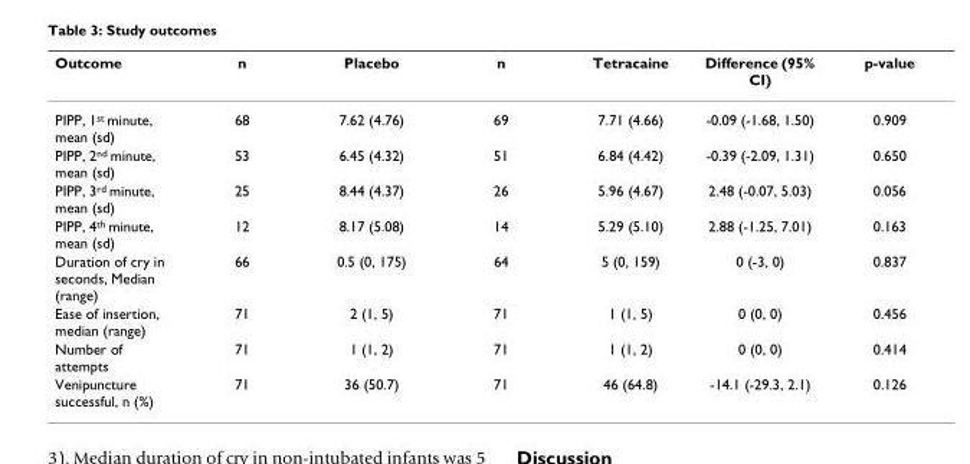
<table><thead><tr><td>Outcome</td><td>n</td><td>Placebo</td><td>n</td><td>Tetracaine</td><td>Difference (95% CI)</td><td>p-value</td></tr></thead><tbody><tr><td>PIPP, 1st minute, mean (sd)</td><td>68</td><td>7.62 (4.76)</td><td>69</td><td>7.71 (4.66)</td><td>-0.09 (-1.68, 1.50)</td><td>0.909</td></tr><tr><td>PIPP, 2nd minute, mean (sd)</td><td>53</td><td>6.45 (4.32)</td><td>51</td><td>6.84 (4.42)</td><td>-0.39 (-2.09, 1.31)</td><td>0.650</td></tr><tr><td>PIPP, 3rd minute, mean (sd)</td><td>25</td><td>8.44 (4.37)</td><td>26</td><td>5.96 (4.67)</td><td>2.48 (-0.07, 5.03)</td><td>0.056</td></tr><tr><td>PIPP, 4th minute, mean (sd)</td><td>12</td><td>8.17 (5.08)</td><td>14</td><td>5.29 (5.10)</td><td>2.88 (-1.25, 7.01)</td><td>0.163</td></tr><tr><td>Duration of cry in seconds, Median (range)</td><td>66</td><td>0.5 (0, 175)</td><td>64</td><td>5 (0, 159)</td><td>0 (-3, 0)</td><td>0.837</td></tr><tr><td>Ease of insertion, median (range)</td><td>71</td><td>2 (1, 5)</td><td>71</td><td>1 (1, 5)</td><td>0 (0, 0)</td><td>0.456</td></tr><tr><td>Number of attempts</td><td>71</td><td>1 (1, 2)</td><td>71</td><td>1 (1, 2)</td><td>0 (0, 0)</td><td>0.414</td></tr><tr><td>Venipuncture successful, n (%)</td><td>71</td><td>36 (50.7)</td><td>71</td><td>46 (64.8)</td><td>-14.1 (-29.3, 2.1)</td><td>0.126</td></tr></tbody></table>